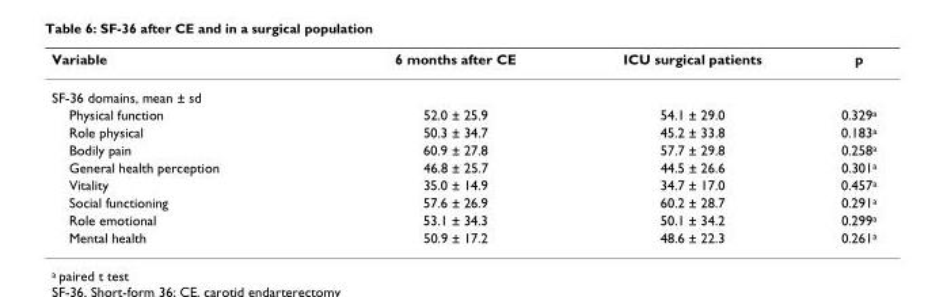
<table><thead><tr><td>Variable</td><td>6 months after CE</td><td>ICU surgical patients</td><td>p</td></tr></thead><tbody><tr><td colspan="4">SF-36 domains, mean ± sd</td></tr><tr><td>Physical function</td><td>52.0 ± 25.9</td><td>54.1 ± 29.0</td><td>0.329<sup>a</sup></td></tr><tr><td>Role physical</td><td>50.3 ± 34.7</td><td>45.2 ± 33.8</td><td>0.183<sup>a</sup></td></tr><tr><td>Bodily pain</td><td>60.9 ± 27.8</td><td>57.7 ± 29.8</td><td>0.258<sup>a</sup></td></tr><tr><td>General health perception</td><td>46.8 ± 25.7</td><td>44.5 ± 26.6</td><td>0.301<sup>a</sup></td></tr><tr><td>Vitality</td><td>35.0 ± 14.9</td><td>34.7 ± 17.0</td><td>0.457<sup>a</sup></td></tr><tr><td>Social functioning</td><td>57.6 ± 26.9</td><td>60.2 ± 28.7</td><td>0.291<sup>a</sup></td></tr><tr><td>Role emotional</td><td>53.1 ± 34.3</td><td>50.1 ± 34.2</td><td>0.299<sup>a</sup></td></tr><tr><td>Mental health</td><td>50.9 ± 17.2</td><td>48.6 ± 22.3</td><td>0.261<sup>a</sup></td></tr></tbody></table>